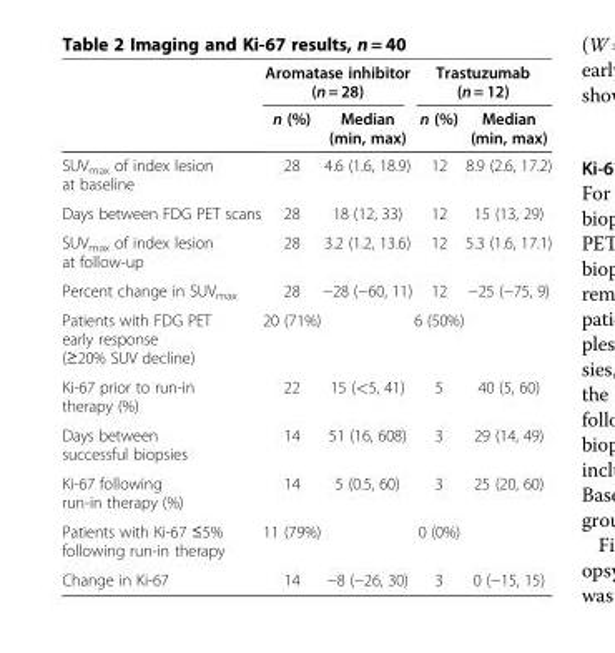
<table><thead><tr><td rowspan="2"></td><td colspan="2">Aromatase inhibitor (n = 28)</td><td colspan="2">Trastuzumab (n = 12)</td></tr><tr><td>n (%)</td><td>Median (min, max)</td><td>n (%)</td><td>Median (min, max)</td></tr></thead><tbody><tr><td>SUV<sub>max</sub> of index lesion at baseline</td><td>28</td><td>4.6 (1.6, 18.9)</td><td>12</td><td>8.9 (2.6, 17.2)</td></tr><tr><td>Days between FDG PET scans</td><td>28</td><td>18 (12, 33)</td><td>12</td><td>15 (13, 29)</td></tr><tr><td>SUV<sub>max</sub> of index lesion at follow-up</td><td>28</td><td>3.2 (1.2, 13.6)</td><td>12</td><td>5.3 (1.6, 17.1)</td></tr><tr><td>Percent change in SUV<sub>max</sub></td><td>28</td><td>−28 (−60, 11)</td><td>12</td><td>−25 (−75, 9)</td></tr><tr><td>Patients with FDG PET early response (≥20% SUV decline)</td><td>20 (71%)</td><td></td><td>6 (50%)</td><td></td></tr><tr><td>Ki-67 prior to run-in therapy (%)</td><td>22</td><td>15 (&lt;5, 41)</td><td>5</td><td>40 (5, 60)</td></tr><tr><td>Days between successful biopsies</td><td>14</td><td>51 (16, 608)</td><td>3</td><td>29 (14, 49)</td></tr><tr><td>Ki-67 following run-in therapy (%)</td><td>14</td><td>5 (0.5, 60)</td><td>3</td><td>25 (20, 60)</td></tr><tr><td>Patients with Ki-67 ≤5% following run-in therapy</td><td>11 (79%)</td><td></td><td>0 (0%)</td><td></td></tr><tr><td>Change in Ki-67</td><td>14</td><td>−8 (−26, 30)</td><td>3</td><td>0 (−15, 15)</td></tr></tbody></table>